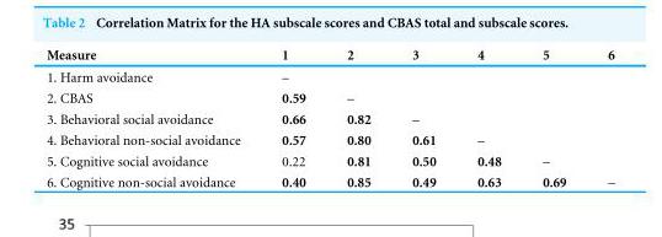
<table><thead><tr><td>Measure</td><td>1</td><td>2</td><td>3</td><td>4</td><td>5</td><td>6</td></tr></thead><tbody><tr><td>1. Harm avoidance</td><td>–</td><td></td><td></td><td></td><td></td><td></td></tr><tr><td>2. CBAS</td><td>0.59</td><td>–</td><td></td><td></td><td></td><td></td></tr><tr><td>3. Behavioral social avoidance</td><td>0.66</td><td>0.82</td><td>–</td><td></td><td></td><td></td></tr><tr><td>4. Behavioral non-social avoidance</td><td>0.57</td><td>0.80</td><td>0.61</td><td>–</td><td></td><td></td></tr><tr><td>5. Cognitive social avoidance</td><td>0.22</td><td>0.81</td><td>0.50</td><td>0.48</td><td>–</td><td></td></tr><tr><td>6. Cognitive non-social avoidance</td><td>0.40</td><td>0.85</td><td>0.49</td><td>0.63</td><td>0.69</td><td>–</td></tr></tbody></table>